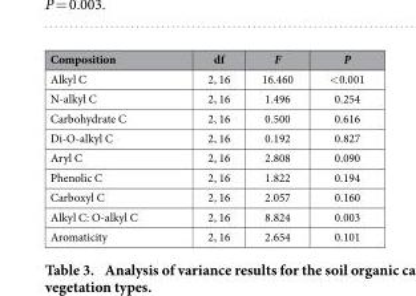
<table><thead><tr><td>Composition</td><td>df</td><td>F</td><td>P</td></tr></thead><tbody><tr><td>Alkyl C</td><td>2, 16</td><td>16.460</td><td>&lt; 0.001</td></tr><tr><td>N-alkyl C</td><td>2, 16</td><td>1.496</td><td>0.254</td></tr><tr><td>Carbohydrate C</td><td>2, 16</td><td>0.500</td><td>0.616</td></tr><tr><td>Di-O-alkyl C</td><td>2, 16</td><td>0.192</td><td>0.827</td></tr><tr><td>Aryl C</td><td>2, 16</td><td>2.808</td><td>0.090</td></tr><tr><td>Phenolic C</td><td>2, 16</td><td>1.822</td><td>0.194</td></tr><tr><td>Carboxyl C</td><td>2, 16</td><td>2.057</td><td>0.160</td></tr><tr><td>Alkyl C: O-alkyl C</td><td>2, 16</td><td>8.824</td><td>0.003</td></tr><tr><td>Aromaticity</td><td>2, 16</td><td>2.654</td><td>0.101</td></tr></tbody></table>